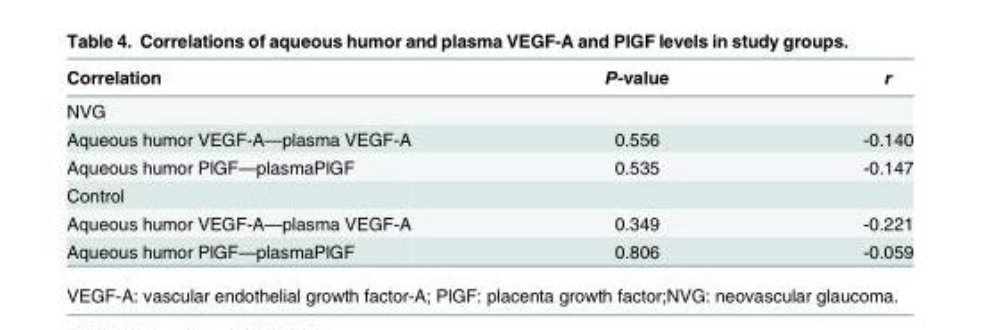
<table><thead><tr><td>Correlation</td><td>P-value</td><td>r</td></tr></thead><tbody><tr><td colspan="3">NVG</td></tr><tr><td>Aqueous humor VEGF-A—plasma VEGF-A</td><td>0.556</td><td>-0.140</td></tr><tr><td>Aqueous humor PlGF—plasmaPlGF</td><td>0.535</td><td>-0.147</td></tr><tr><td colspan="3">Control</td></tr><tr><td>Aqueous humor VEGF-A—plasma VEGF-A</td><td>0.349</td><td>-0.221</td></tr><tr><td>Aqueous humor PlGF—plasmaPlGF</td><td>0.806</td><td>-0.059</td></tr></tbody></table>